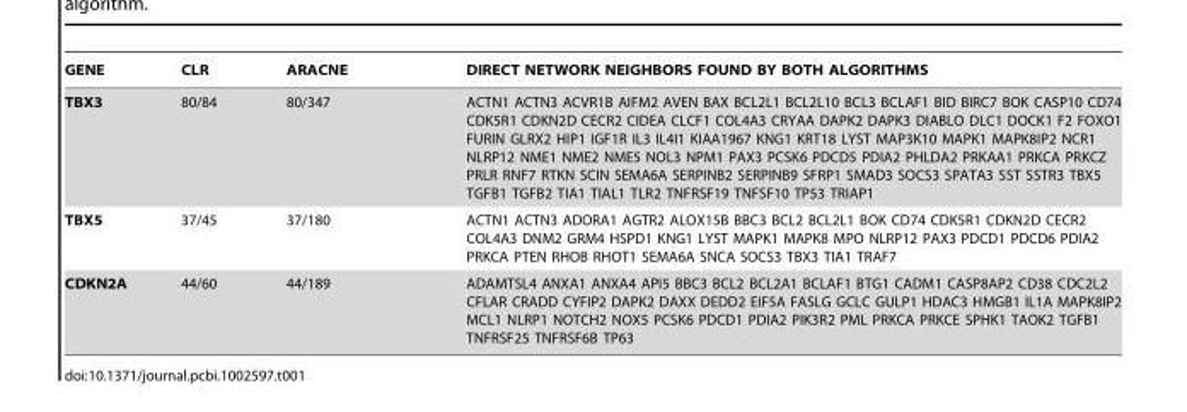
<table><thead><tr><td>GENE</td><td>CLR</td><td>ARACNE</td><td>DIRECT NETWORK NEIGHBORS FOUND BY BOTH ALGORITHMS</td></tr></thead><tbody><tr><td>TBX3</td><td>80/84</td><td>80/347</td><td>ACTN1 ACTN3 ACVR1B AIFM2 AVEN BAX BCL2L1 BCL2L10 BCL3 BCLAF1 BID BIRC7 BOK CASP10 CD74 CDK5R1 CDKN2D CECR2 CIDEA CLCF1 COL4A3 CRYAA DAPK2 DAPK3 DIABLO DLC1 DOCK1 F2 FOXO1 FURIN GLRX2 HIP1 IGF1R IL3 IL4I1 KIAA1967 KNG1 KRT18 LYST MAP3K10 MAPK1 MAPK8IP2 NCR1 NLRP12 NME1 NME2 NME5 NOL3 NPM1 PAX3 PCSK6 PDCD5 PDIA2 PHLDA2 PRKAA1 PRKCA PRKCZ PRLR RNF7 RTKN SCIN SEMA6A SERPINB2 SERPINB9 SFRP1 SMAD3 SOCS3 SPATA3 SST SSTR3 TBX5 TGFB1 TGFB2 TIA1 TIAL1 TLR2 TNFRSF19 TNFSF10 TP53 TRIAP1</td></tr><tr><td>TBX5</td><td>37/45</td><td>37/180</td><td>ACTN1 ACTN3 ADORA1 AGTR2 ALOX15B BBC3 BCL2 BCL2L1 BOK CD74 CDK5R1 CDKN2D CECR2 COL4A3 DNM2 GRM4 HSPD1 KNG1 LYST MAPK1 MAPK8 MPO NLRP12 PAX3 PDCD1 PDCD6 PDIA2 PRKCA PTEN RHOB RHOT1 SEMA6A SNCA SOCS3 TBX3 TIA1 TRAF7</td></tr><tr><td>CDKN2A</td><td>44/60</td><td>44/189</td><td>ADAMTSL4 ANXA1 ANXA4 API5 BBC3 BCL2 BCL2A1 BCLAF1 BTG1 CADM1 CASP8AP2 CD38 CDC2L2 CFLAR CRADD CYFIP2 DAPK2 DAXX DEDD2 EIF5A FASLG GCLC GULP1 HDAC3 HMGB1 IL1A MAPK8IP2 MCL1 NLRP1 NOTCH2 NOX5 PCSK6 PDCD1 PDIA2 PIK3R2 PML PRKCA PRKCE SPHK1 TAOK2 TGFB1 TNFRSF25 TNFRSF6B TP63</td></tr></tbody></table>